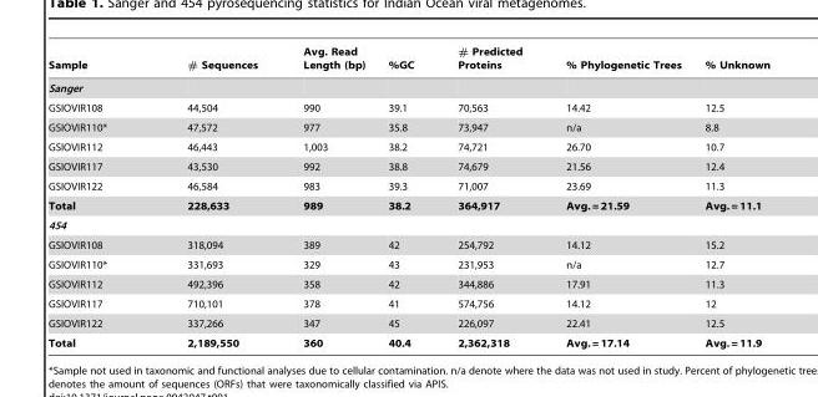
<table><thead><tr><td>Sample</td><td># Sequences</td><td>Avg. Read Length (bp)</td><td>%GC</td><td># Predicted Proteins</td><td>% Phylogenetic Trees</td><td>% Unknown</td></tr></thead><tbody><tr><td colspan="7">Sanger</td></tr><tr><td>GSIOVIR108</td><td>44,504</td><td>990</td><td>39.1</td><td>70,563</td><td>14.42</td><td>12.5</td></tr><tr><td>GSIOVIR110*</td><td>47,572</td><td>977</td><td>35.8</td><td>73,947</td><td>n/a</td><td>8.8</td></tr><tr><td>GSIOVIR112</td><td>46,443</td><td>1,003</td><td>38.2</td><td>74,721</td><td>26.70</td><td>10.7</td></tr><tr><td>GSIOVIR117</td><td>43,530</td><td>992</td><td>38.8</td><td>74,679</td><td>21.56</td><td>12.4</td></tr><tr><td>GSIOVIR122</td><td>46,584</td><td>983</td><td>39.3</td><td>71,007</td><td>23.69</td><td>11.3</td></tr><tr><td>Total</td><td>228,633</td><td>989</td><td>38.2</td><td>364,917</td><td>Avg. = 21.59</td><td>Avg. = 11.1</td></tr><tr><td colspan="7">454</td></tr><tr><td>GSIOVIR108</td><td>318,094</td><td>389</td><td>42</td><td>254,792</td><td>14.12</td><td>15.2</td></tr><tr><td>GSIOVIR110*</td><td>331,693</td><td>329</td><td>43</td><td>231,953</td><td>n/a</td><td>12.7</td></tr><tr><td>GSIOVIR112</td><td>492,396</td><td>358</td><td>42</td><td>344,886</td><td>17.91</td><td>11.3</td></tr><tr><td>GSIOVIR117</td><td>710,101</td><td>378</td><td>41</td><td>574,756</td><td>14.12</td><td>12</td></tr><tr><td>GSIOVIR122</td><td>337,266</td><td>347</td><td>45</td><td>226,097</td><td>22.41</td><td>12.5</td></tr><tr><td>Total</td><td>2,189,550</td><td>360</td><td>40.4</td><td>2,362,318</td><td>Avg. = 17.14</td><td>Avg. = 11.9</td></tr></tbody></table>